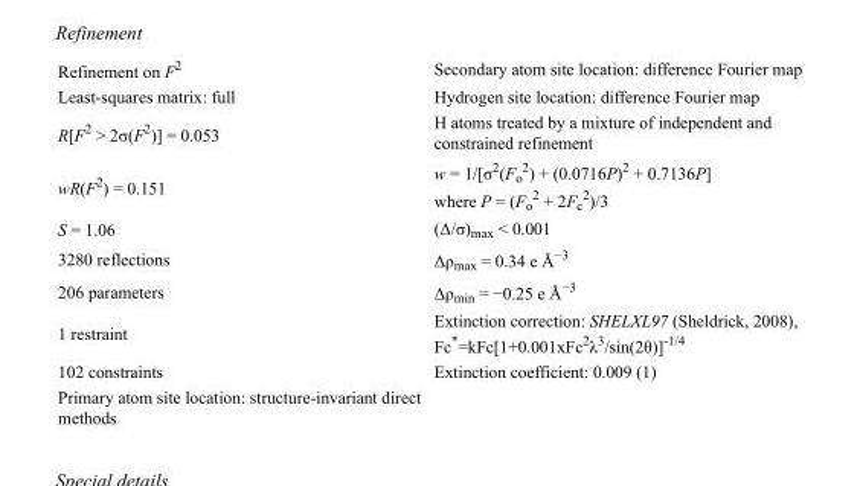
<table><tbody><tr><td>Refinement on F<sup>2</sup></td><td>Secondary atom site location: difference Fourier map</td></tr><tr><td>Least-squares matrix: full</td><td>Hydrogen site location: difference Fourier map</td></tr><tr><td>R[F<sup>2</sup> &gt; 2σ(F<sup>2</sup>)] = 0.053</td><td>H atoms treated by a mixture of independent and constrained refinement</td></tr><tr><td>wR(F<sup>2</sup>) = 0.151</td><td>w = 1/[σ<sup>2</sup>(F<sub>o</sub> <sup>2</sup>) + (0.0716P)<sup>2</sup> + 0.7136P] where P = (F<sub>o</sub> <sup>2</sup> + 2F<sub>c</sub> <sup>2</sup>)/3</td></tr><tr><td>S = 1.06</td><td>(Δ/σ)<sub>max</sub> &lt; 0.001</td></tr><tr><td>3280 reflections</td><td>Δρ<sub>max</sub> = 0.34 e Å<sup>−3</sup></td></tr><tr><td>206 parameters</td><td>Δρmin = −0.25 e Å−3</td></tr><tr><td>1 restraint</td><td>Extinction correction: SHELXL97 (Sheldrick, 2008), Fc*=kFc[1+0.001xFc<sup>2</sup>λ<sup>3</sup>/sin(2θ)]<sup>-1/4</sup></td></tr><tr><td>102 constraints</td><td>Extinction coefficient: 0.009 (1)</td></tr><tr><td>Primary atom site location: structure-invariant direct methods</td><td></td></tr></tbody></table>